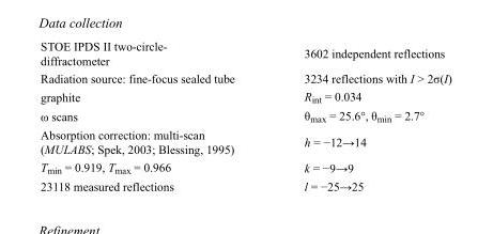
<table><tbody><tr><td>STOE IPDS II two-circle- diffractometer</td><td>3602 independent reflections</td></tr><tr><td>Radiation source: fine-focus sealed tube</td><td>3234 reflections with I &gt; 2σ(I)</td></tr><tr><td>graphite</td><td>R<sub>int</sub> = 0.034</td></tr><tr><td>ω scans</td><td>θ<sub>max</sub> = 25.6°, θ<sub>min</sub> = 2.7°</td></tr><tr><td>Absorption correction: multi-scan (MULABS; Spek, 2003; Blessing, 1995)</td><td>h = −12→14</td></tr><tr><td>T<sub>min</sub> = 0.919, T<sub>max</sub> = 0.966</td><td>k = −9→9</td></tr><tr><td>23118 measured reflections</td><td>l = −25→25</td></tr></tbody></table>